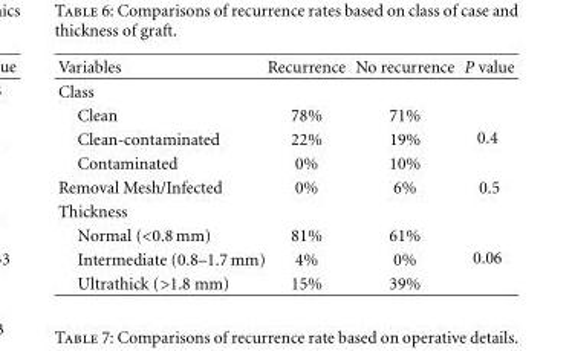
<table><thead><tr><td>Variables</td><td>Recurrence</td><td>No recurrence</td><td>P value</td></tr></thead><tbody><tr><td colspan="4">Class</td></tr><tr><td>Clean</td><td>78%</td><td>71%</td><td rowspan="3">0.4</td></tr><tr><td>Clean-contaminated</td><td>22%</td><td>19%</td></tr><tr><td>Contaminated</td><td>0%</td><td>10%</td></tr><tr><td>Removal Mesh/Infected</td><td>0%</td><td>6%</td><td>0.5</td></tr><tr><td colspan="4">Thickness</td></tr><tr><td>Normal (&lt;0.8 mm)</td><td>81%</td><td>61%</td><td rowspan="3">0.06</td></tr><tr><td>Intermediate (0.8–1.7 mm)</td><td>4%</td><td>0%</td></tr><tr><td>Ultrathick (&gt;1.8 mm)</td><td>15%</td><td>39%</td></tr></tbody></table>